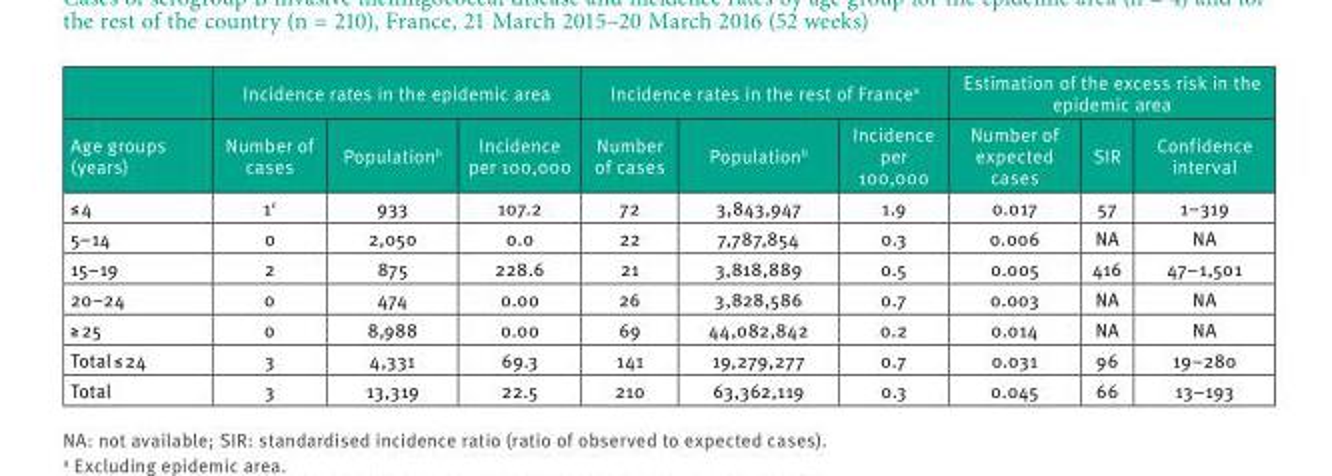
<table><thead><tr><td rowspan="2">Age groups (years)</td><td colspan="3">Incidence rates in the epidemic area</td><td colspan="3">Incidence rates in the rest of France<sup>a</sup></td><td colspan="3">Estimation of the excess risk in the epidemic area</td></tr><tr><td>Number of cases</td><td>Population<sup>b</sup></td><td>Incidence per 100,000</td><td>Number of cases</td><td>Population<sup>b</sup></td><td>Incidence per 100,000</td><td>Number of expected cases</td><td>SIR</td><td>Confidence interval</td></tr></thead><tbody><tr><td>≤ 4</td><td>1<sup>c</sup></td><td>933</td><td>107.2</td><td>72</td><td>3,843,947</td><td>1.9</td><td>0.017</td><td>57</td><td>1–319</td></tr><tr><td>5–14</td><td>0</td><td>2,050</td><td>0.0</td><td>22</td><td>7,787,854</td><td>0.3</td><td>0.006</td><td>NA</td><td>NA</td></tr><tr><td>15–19</td><td>2</td><td>875</td><td>228.6</td><td>21</td><td>3,818,889</td><td>0.5</td><td>0.005</td><td>416</td><td>47–1,501</td></tr><tr><td>20–24</td><td>0</td><td>474</td><td>0.00</td><td>26</td><td>3,828,586</td><td>0.7</td><td>0.003</td><td>NA</td><td>NA</td></tr><tr><td>≥ 25</td><td>0</td><td>8,988</td><td>0.00</td><td>69</td><td>44,082,842</td><td>0.2</td><td>0.014</td><td>NA</td><td>NA</td></tr><tr><td>Total ≤ 24</td><td>3</td><td>4,331</td><td>69.3</td><td>141</td><td>19,279,277</td><td>0.7</td><td>0.031</td><td>96</td><td>19–280</td></tr><tr><td>Total</td><td>3</td><td>13,319</td><td>22.5</td><td>210</td><td>63,362,119</td><td>0.3</td><td>0.045</td><td>66</td><td>13–193</td></tr></tbody></table>